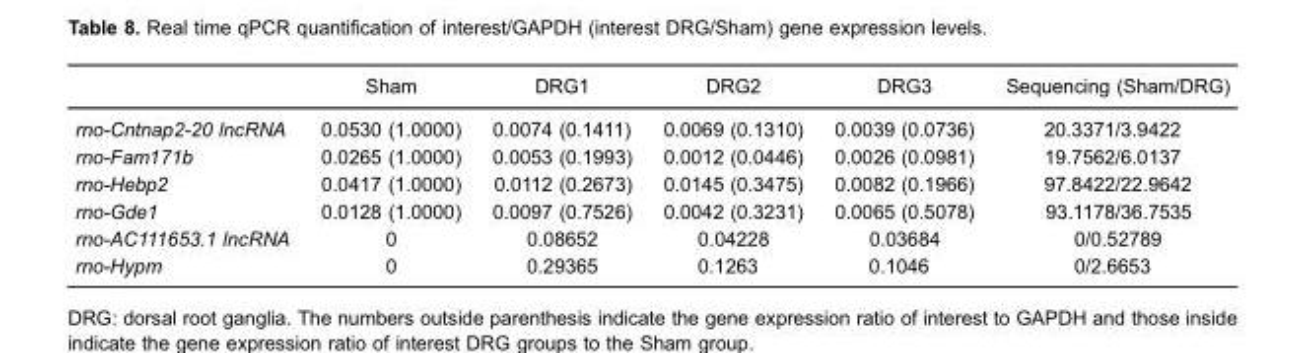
<table><thead><tr><td></td><td>Sham</td><td>DRG1</td><td>DRG2</td><td>DRG3</td><td>Sequencing (Sham/DRG)</td></tr></thead><tbody><tr><td>rno-Cntnap2-20 lncRNA</td><td>0.0530 (1.0000)</td><td>0.0074 (0.1411)</td><td>0.0069 (0.1310)</td><td>0.0039 (0.0736)</td><td>20.3371/3.9422</td></tr><tr><td>rno-Fam171b</td><td>0.0265 (1.0000)</td><td>0.0053 (0.1993)</td><td>0.0012 (0.0446)</td><td>0.0026 (0.0981)</td><td>19.7562/6.0137</td></tr><tr><td>rno-Hebp2</td><td>0.0417 (1.0000)</td><td>0.0112 (0.2673)</td><td>0.0145 (0.3475)</td><td>0.0082 (0.1966)</td><td>97.8422/22.9642</td></tr><tr><td>rno-Gde1</td><td>0.0128 (1.0000)</td><td>0.0097 (0.7526)</td><td>0.0042 (0.3231)</td><td>0.0065 (0.5078)</td><td>93.1178/36.7535</td></tr><tr><td>rno-AC111653.1 lncRNA</td><td>0</td><td>0.08652</td><td>0.04228</td><td>0.03684</td><td>0/0.52789</td></tr><tr><td>rno-Hypm</td><td>0</td><td>0.29365</td><td>0.1263</td><td>0.1046</td><td>0/2.6653</td></tr></tbody></table>